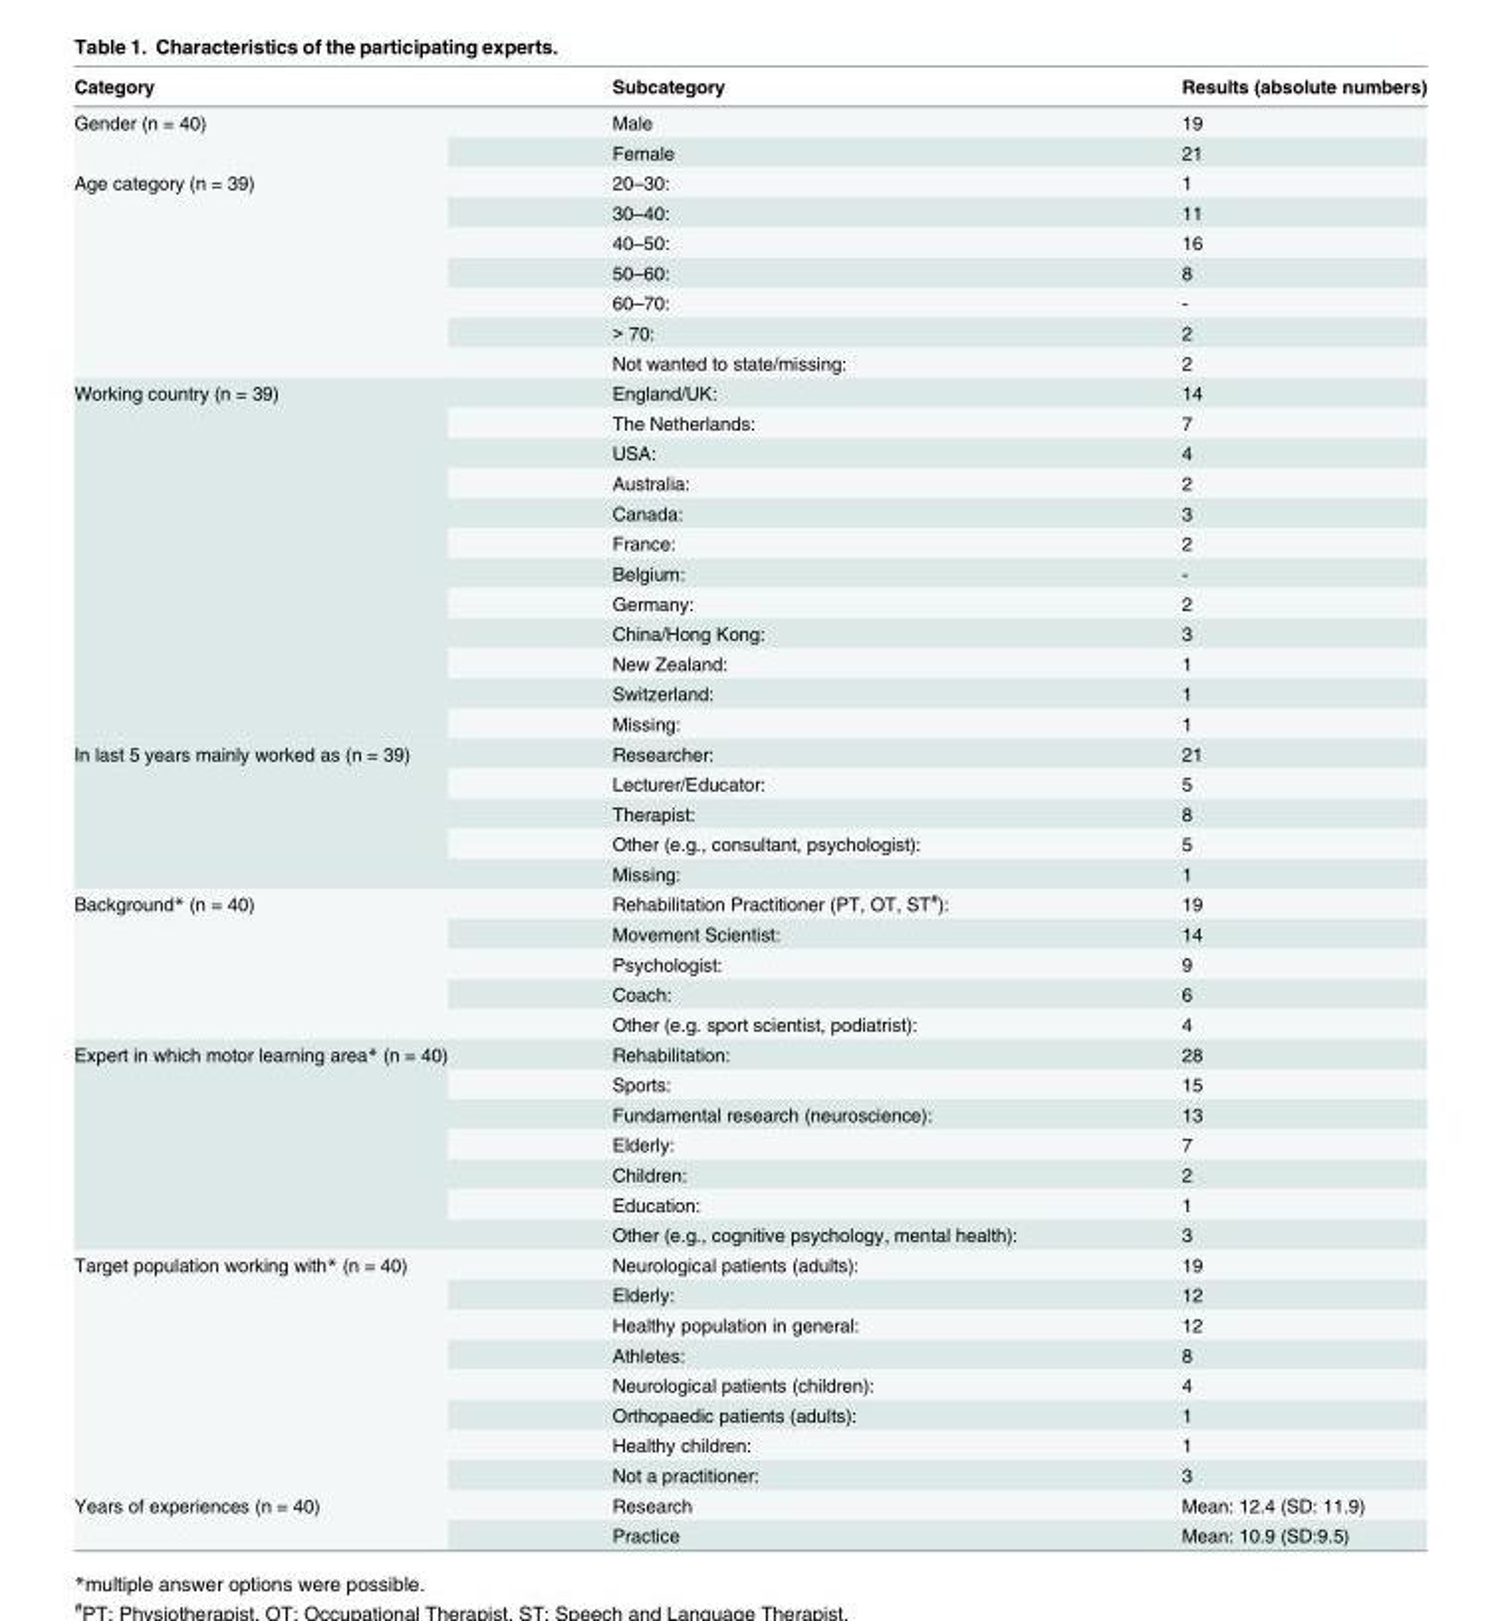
<table><thead><tr><td>Category</td><td>Subcategory</td><td>Results (absolute numbers)</td></tr></thead><tbody><tr><td rowspan="2">Gender (n = 40)</td><td>Male</td><td>19</td></tr><tr><td>Female</td><td>21</td></tr><tr><td rowspan="7">Age category (n = 39)</td><td>20–30:</td><td>1</td></tr><tr><td>30–40:</td><td>11</td></tr><tr><td>40–50:</td><td>16</td></tr><tr><td>50–60:</td><td>8</td></tr><tr><td>60–70:</td><td>-</td></tr><tr><td>&gt; 70:</td><td>2</td></tr><tr><td>Not wanted to state/missing:</td><td>2</td></tr><tr><td rowspan="12">Working country (n = 39)</td><td>England/UK:</td><td>14</td></tr><tr><td>The Netherlands:</td><td>7</td></tr><tr><td>USA:</td><td>4</td></tr><tr><td>Australia:</td><td>2</td></tr><tr><td>Canada:</td><td>3</td></tr><tr><td>France:</td><td>2</td></tr><tr><td>Belgium:</td><td>-</td></tr><tr><td>Germany:</td><td>2</td></tr><tr><td>China/Hong Kong:</td><td>3</td></tr><tr><td>New Zealand:</td><td>1</td></tr><tr><td>Switzerland:</td><td>1</td></tr><tr><td>Missing:</td><td>1</td></tr><tr><td rowspan="5">In last 5 years mainly worked as (n = 39)</td><td>Researcher:</td><td>21</td></tr><tr><td>Lecturer/Educator:</td><td>5</td></tr><tr><td>Therapist:</td><td>8</td></tr><tr><td>Other (e.g., consultant, psychologist):</td><td>5</td></tr><tr><td>Missing:</td><td>1</td></tr><tr><td rowspan="5">Background* (n = 40)</td><td>Rehabilitation Practitioner (PT, OT, ST<sup>#</sup>):</td><td>19</td></tr><tr><td>Movement Scientist:</td><td>14</td></tr><tr><td>Psychologist:</td><td>9</td></tr><tr><td>Coach:</td><td>6</td></tr><tr><td>Other (e.g. sport scientist, podiatrist):</td><td>4</td></tr><tr><td rowspan="7">Expert in which motor learning area* (n = 40)</td><td>Rehabilitation:</td><td>28</td></tr><tr><td>Sports:</td><td>15</td></tr><tr><td>Fundamental research (neuroscience):</td><td>13</td></tr><tr><td>Elderly:</td><td>7</td></tr><tr><td>Children:</td><td>2</td></tr><tr><td>Education:</td><td>1</td></tr><tr><td>Other (e.g., cognitive psychology, mental health):</td><td>3</td></tr><tr><td rowspan="8">Target population working with* (n = 40)</td><td>Neurological patients (adults):</td><td>19</td></tr><tr><td>Elderly:</td><td>12</td></tr><tr><td>Healthy population in general:</td><td>12</td></tr><tr><td>Athletes:</td><td>8</td></tr><tr><td>Neurological patients (children):</td><td>4</td></tr><tr><td>Orthopaedic patients (adults):</td><td>1</td></tr><tr><td>Healthy children:</td><td>1</td></tr><tr><td>Not a practitioner:</td><td>3</td></tr><tr><td rowspan="2">Years of experiences (n = 40)</td><td>Research</td><td>Mean: 12.4 (SD: 11.9)</td></tr><tr><td>Practice</td><td>Mean: 10.9 (SD:9.5)</td></tr></tbody></table>